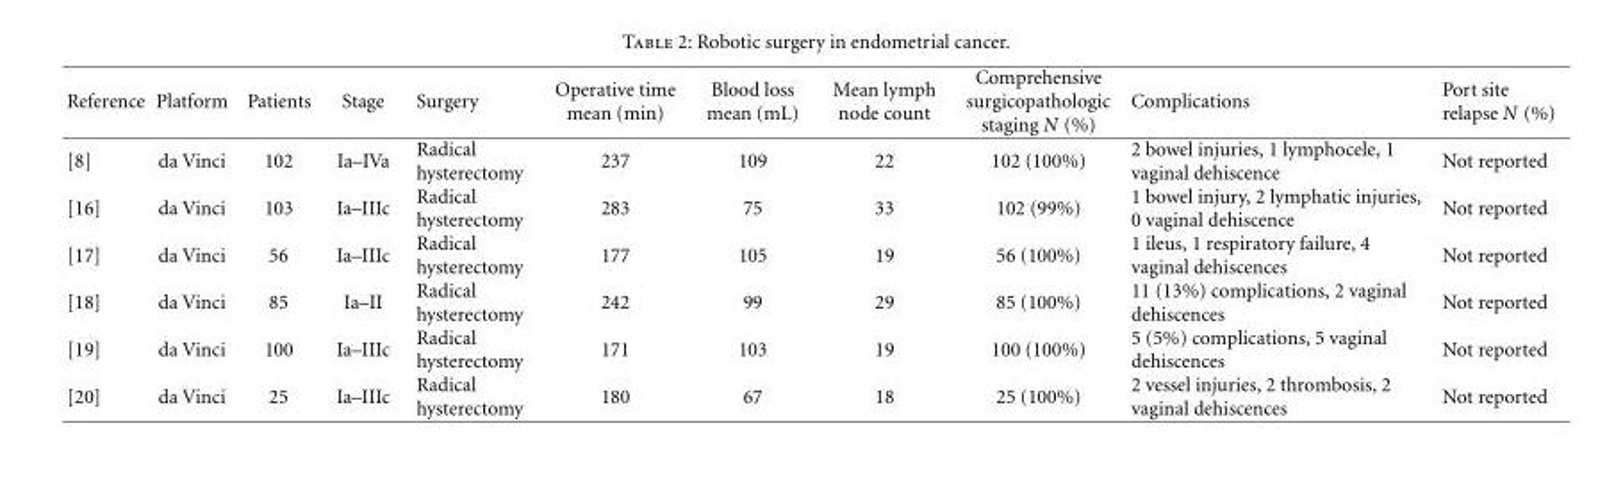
<table><thead><tr><td>Reference</td><td>Platform</td><td>Patients</td><td>Stage</td><td>Surgery</td><td>Operative time mean (min)</td><td>Blood loss mean (mL)</td><td>Mean lymph node count</td><td>Comprehensive surgicopathologic staging N (%)</td><td>Complications</td><td>Port site relapse N (%)</td></tr></thead><tbody><tr><td>[8]</td><td>da Vinci</td><td>102</td><td>Ia–IVa</td><td>Radical hysterectomy</td><td>237</td><td>109</td><td>22</td><td>102 (100%)</td><td>2 bowel injuries, 1 lymphocele, 1 vaginal dehiscence</td><td>Not reported</td></tr><tr><td>[16]</td><td>da Vinci</td><td>103</td><td>Ia–IIIc</td><td>Radical hysterectomy</td><td>283</td><td>75</td><td>33</td><td>102 (99%)</td><td>1 bowel injury, 2 lymphatic injuries, 0 vaginal dehiscence</td><td>Not reported</td></tr><tr><td>[17]</td><td>da Vinci</td><td>56</td><td>Ia–IIIc</td><td>Radical hysterectomy</td><td>177</td><td>105</td><td>19</td><td>56 (100%)</td><td>1 ileus, 1 respiratory failure, 4 vaginal dehiscences</td><td>Not reported</td></tr><tr><td>[18]</td><td>da Vinci</td><td>85</td><td>Ia–II</td><td>Radical hysterectomy</td><td>242</td><td>99</td><td>29</td><td>85 (100%)</td><td>11 (13%) complications, 2 vaginal dehiscences</td><td>Not reported</td></tr><tr><td>[19]</td><td>da Vinci</td><td>100</td><td>Ia–IIIc</td><td>Radical hysterectomy</td><td>171</td><td>103</td><td>19</td><td>100 (100%)</td><td>5 (5%) complications, 5 vaginal dehiscences</td><td>Not reported</td></tr><tr><td>[20]</td><td>da Vinci</td><td>25</td><td>Ia–IIIc</td><td>Radical hysterectomy</td><td>180</td><td>67</td><td>18</td><td>25 (100%)</td><td>2 vessel injuries, 2 thrombosis, 2 vaginal dehiscences</td><td>Not reported</td></tr></tbody></table>